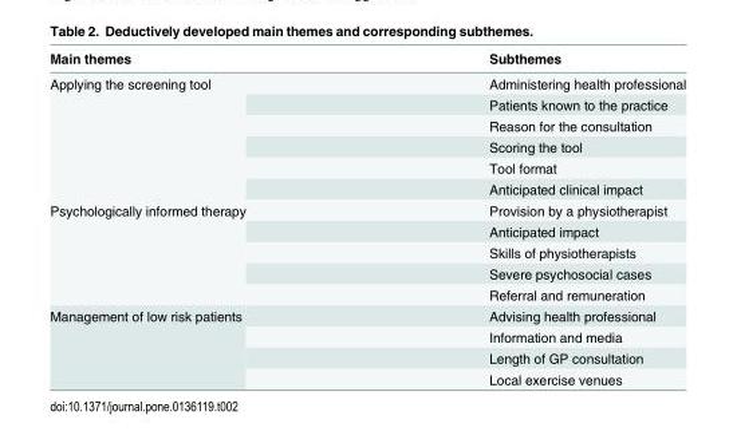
<table><thead><tr><td>Main themes</td><td>Subthemes</td></tr></thead><tbody><tr><td rowspan="6">Applying the screening tool</td><td>Administering health professional</td></tr><tr><td>Patients known to the practice</td></tr><tr><td>Reason for the consultation</td></tr><tr><td>Scoring the tool</td></tr><tr><td>Tool format</td></tr><tr><td>Anticipated clinical impact</td></tr><tr><td rowspan="5">Psychologically informed therapy</td><td>Provision by a physiotherapist</td></tr><tr><td>Anticipated impact</td></tr><tr><td>Skills of physiotherapists</td></tr><tr><td>Severe psychosocial cases</td></tr><tr><td>Referral and remuneration</td></tr><tr><td rowspan="4">Management of low risk patients</td><td>Advising health professional</td></tr><tr><td>Information and media</td></tr><tr><td>Length of GP consultation</td></tr><tr><td>Local exercise venues</td></tr></tbody></table>